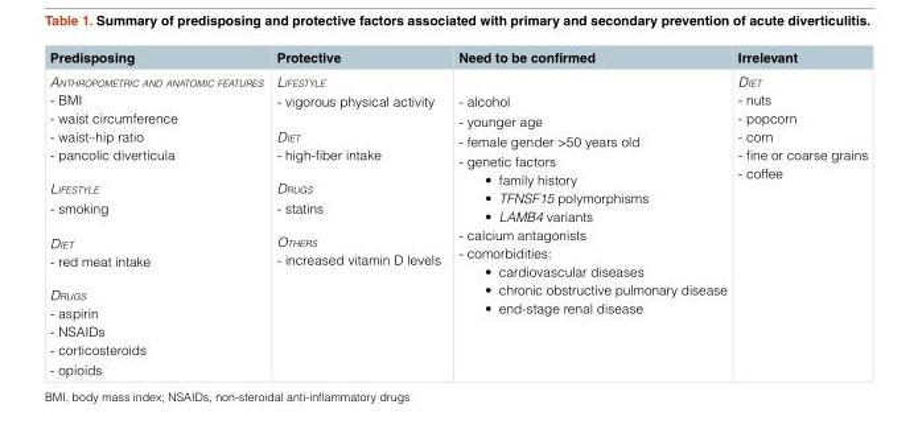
<table><thead><tr><td>Predisposing</td><td>Protective</td><td>Need to be confirmed</td><td>Irrelevant</td></tr></thead><tbody><tr><td>Anthropometric and anatomic features - BMI - waist circumference - waist–hip ratio - pancolic diverticula Lifestyle - smoking Diet - red meat intake Drugs - aspirin - NSAIDs - corticosteroids - opioids</td><td>Lifestyle - vigorous physical activity Diet - high-fiber intake Drugs - statins Others - increased vitamin D levels</td><td>- alcohol - younger age - female gender &gt;50 years old - genetic factors • family history • TFNSF15 polymorphisms • LAMB4 variants - calcium antagonists - comorbidities: • cardiovascular diseases • chronic obstructive pulmonary disease • end-stage renal disease</td><td>Diet - nuts - popcorn - corn - fine or coarse grains - coffee</td></tr></tbody></table>